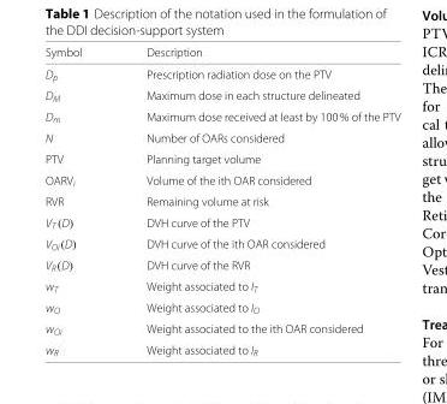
<table><thead><tr><td>Symbol</td><td>Description</td></tr></thead><tbody><tr><td>D<sub>p</sub></td><td>Prescription radiation dose on the PTV</td></tr><tr><td>D<sub>M</sub></td><td>Maximum dose in each structure delineated</td></tr><tr><td>D<sub>m</sub></td><td>Maximum dose received at least by 100 % of the PTV</td></tr><tr><td>N</td><td>Number of OARs considered</td></tr><tr><td>PTV</td><td>Planning target volume</td></tr><tr><td>OARV<sub>i</sub></td><td>Volume of the ith OAR considered</td></tr><tr><td>RVR</td><td>Remaining volume at risk</td></tr><tr><td>V<sub>T</sub>(D)</td><td>DVH curve of the PTV</td></tr><tr><td>V<sub>Oi</sub>(D)</td><td>DVH curve of the ith OAR considered</td></tr><tr><td>V<sub>R</sub>(D)</td><td>DVH curve of the RVR</td></tr><tr><td>w<sub>T</sub></td><td>Weight associated to I<sub>T</sub></td></tr><tr><td>w<sub>O</sub></td><td>Weight associated to I<sub>O</sub></td></tr><tr><td>w<sub>Oi</sub></td><td>Weight associated to the ith OAR considered</td></tr><tr><td>w<sub>R</sub></td><td>Weight associated to I<sub>R</sub></td></tr></tbody></table>